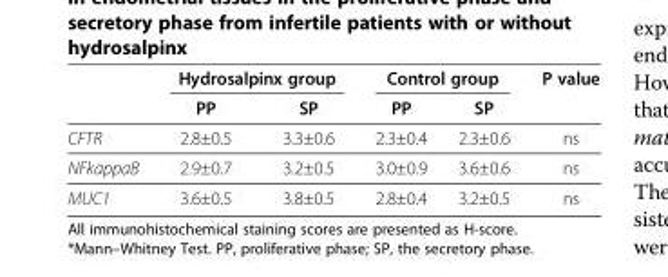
<table><thead><tr><td rowspan="2"></td><td colspan="2">Hydrosalpinx group</td><td colspan="2">Control group</td><td rowspan="2">P value</td></tr><tr><td>PP</td><td>SP</td><td>PP</td><td>SP</td></tr></thead><tbody><tr><td>CFTR</td><td>2.8±0.5</td><td>3.3±0.6</td><td>2.3±0.4</td><td>2.3±0.6</td><td>ns</td></tr><tr><td>NFkappaB</td><td>2.9±0.7</td><td>3.2±0.5</td><td>3.0±0.9</td><td>3.6±0.6</td><td>ns</td></tr><tr><td>MUC1</td><td>3.6±0.5</td><td>3.8±0.5</td><td>2.8±0.4</td><td>3.2±0.5</td><td>ns</td></tr></tbody></table>